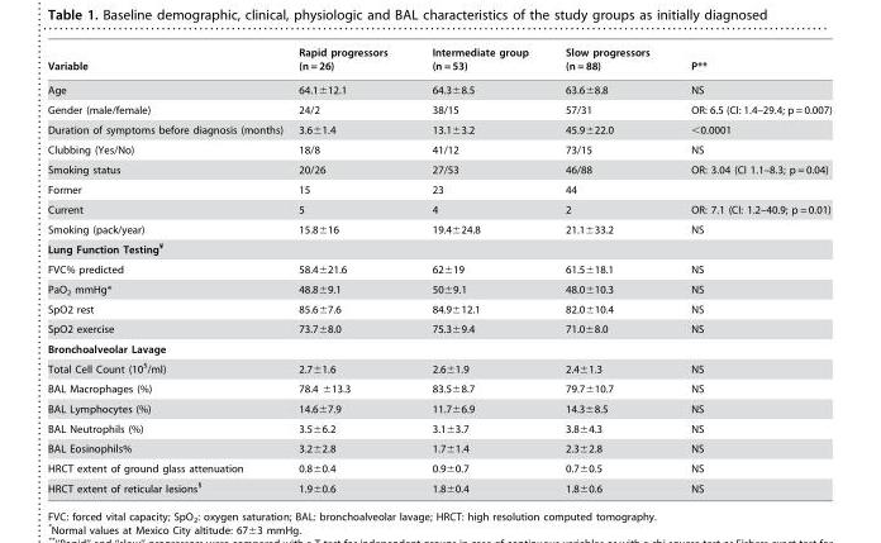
<table><thead><tr><td>Variable</td><td>Rapid progressors (n = 26)</td><td>Intermediate group (n = 53)</td><td>Slow progressors (n = 88)</td><td>P**</td></tr></thead><tbody><tr><td>Age</td><td>64.1±12.1</td><td>64.3±8.5</td><td>63.6±8.8</td><td>NS</td></tr><tr><td>Gender (male/female)</td><td>24/2</td><td>38/15</td><td>57/31</td><td>OR: 6.5 (CI: 1.4–29.4; p = 0.007)</td></tr><tr><td>Duration of symptoms before diagnosis (months)</td><td>3.6±1.4</td><td>13.1±3.2</td><td>45.9±22.0</td><td>&lt;0.0001</td></tr><tr><td>Clubbing (Yes/No)</td><td>18/8</td><td>41/12</td><td>73/15</td><td>NS</td></tr><tr><td>Smoking status</td><td>20/26</td><td>27/53</td><td>46/88</td><td>OR: 3.04 (CI 1.1–8.3; p = 0.04)</td></tr><tr><td>Former</td><td>15</td><td>23</td><td>44</td><td></td></tr><tr><td>Current</td><td>5</td><td>4</td><td>2</td><td>OR: 7.1 (CI: 1.2–40.9; p = 0.01)</td></tr><tr><td>Smoking (pack/year)</td><td>15.8±16</td><td>19.4±24.8</td><td>21.1±33.2</td><td>NS</td></tr><tr><td colspan="5">Lung Function Testing<sup>¥</sup></td></tr><tr><td>FVC% predicted</td><td>58.4±21.6</td><td>62±19</td><td>61.5±18.1</td><td>NS</td></tr><tr><td>PaO<sub>2</sub> mmHg*</td><td>48.8±9.1</td><td>50±9.1</td><td>48.0±10.3</td><td>NS</td></tr><tr><td>SpO2 rest</td><td>85.6±7.6</td><td>84.9±12.1</td><td>82.0±10.4</td><td>NS</td></tr><tr><td>SpO2 exercise</td><td>73.7±8.0</td><td>75.3±9.4</td><td>71.0±8.0</td><td>NS</td></tr><tr><td colspan="5">Bronchoalveolar Lavage</td></tr><tr><td>Total Cell Count (10<sup>5</sup>/ml)</td><td>2.7±1.6</td><td>2.6±1.9</td><td>2.4±1.3</td><td>NS</td></tr><tr><td>BAL Macrophages (%)</td><td>78.4 ±13.3</td><td>83.5±8.7</td><td>79.7±10.7</td><td>NS</td></tr><tr><td>BAL Lymphocytes (%)</td><td>14.6±7.9</td><td>11.7±6.9</td><td>14.3±8.5</td><td>NS</td></tr><tr><td>BAL Neutrophils (%)</td><td>3.5±6.2</td><td>3.1±3.7</td><td>3.8±4.3</td><td>NS</td></tr><tr><td>BAL Eosinophils%</td><td>3.2±2.8</td><td>1.7±1.4</td><td>2.3±2.8</td><td>NS</td></tr><tr><td>HRCT extent of ground glass attenuation</td><td>0.8±0.4</td><td>0.9±0.7</td><td>0.7±0.5</td><td>NS</td></tr><tr><td>HRCT extent of reticular lesions<sup>§</sup></td><td>1.9±0.6</td><td>1.8±0.4</td><td>1.8±0.6</td><td>NS</td></tr></tbody></table>